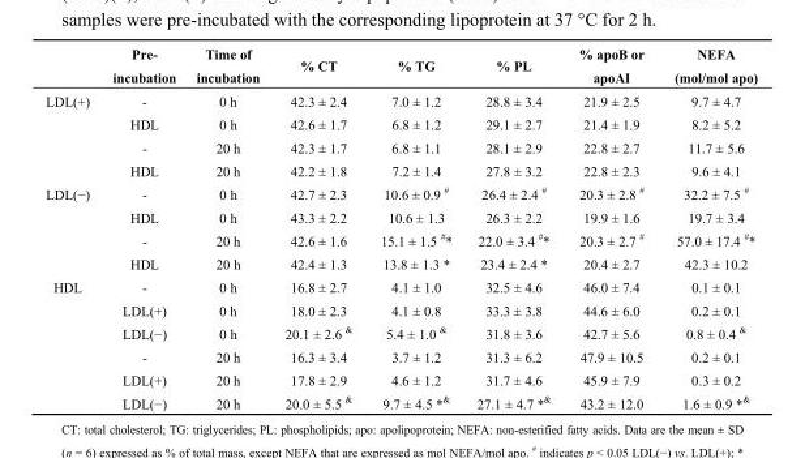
<table><thead><tr><td></td><td>Pre- incubation</td><td>Time of incubation</td><td>% CT</td><td>% TG</td><td>% PL</td><td>% apoB or apoAI</td><td>NEFA (mol/mol apo)</td></tr></thead><tbody><tr><td rowspan="4">LDL(+)</td><td>-</td><td>0 h</td><td>42.3 ± 2.4</td><td>7.0 ± 1.2</td><td>28.8 ± 3.4</td><td>21.9 ± 2.5</td><td>9.7 ± 4.7</td></tr><tr><td>HDL</td><td>0 h</td><td>42.6 ± 1.7</td><td>6.8 ± 1.2</td><td>29.1 ± 2.7</td><td>21.4 ± 1.9</td><td>8.2 ± 5.2</td></tr><tr><td>-</td><td>20 h</td><td>42.3 ± 1.7</td><td>6.8 ± 1.1</td><td>28.1 ± 2.9</td><td>22.8 ± 2.7</td><td>11.7 ± 5.6</td></tr><tr><td>HDL</td><td>20 h</td><td>42.2 ± 1.8</td><td>7.2 ± 1.4</td><td>27.8 ± 3.2</td><td>22.8 ± 2.3</td><td>9.6 ± 4.1</td></tr><tr><td rowspan="4">LDL(−)</td><td>-</td><td>0 h</td><td>42.7 ± 2.3</td><td>10.6 ± 0.9 #</td><td>26.4 ± 2.4 #</td><td>20.3 ± 2.8 #</td><td>32.2 ± 7.5 #</td></tr><tr><td>HDL</td><td>0 h</td><td>43.3 ± 2.2</td><td>10.6 ± 1.3</td><td>26.3 ± 2.2</td><td>19.9 ± 1.6</td><td>19.7 ± 3.4</td></tr><tr><td>-</td><td>20 h</td><td>42.6 ± 1.6</td><td>15.1 ± 1.5 #*</td><td>22.0 ± 3.4 #*</td><td>20.3 ± 2.7 #</td><td>57.0 ± 17.4 #*</td></tr><tr><td>HDL</td><td>20 h</td><td>42.4 ± 1.3</td><td>13.8 ± 1.3 *</td><td>23.4 ± 2.4 *</td><td>20.4 ± 2.7</td><td>42.3 ± 10.2</td></tr><tr><td rowspan="6">HDL</td><td>-</td><td>0 h</td><td>16.8 ± 2.7</td><td>4.1 ± 1.0</td><td>32.5 ± 4.6</td><td>46.0 ± 7.4</td><td>0.1 ± 0.1</td></tr><tr><td>LDL(+)</td><td>0 h</td><td>18.0 ± 2.3</td><td>4.1 ± 0.8</td><td>33.3 ± 3.8</td><td>44.6 ± 6.0</td><td>0.2 ± 0.1</td></tr><tr><td>LDL(−)</td><td>0 h</td><td>20.1 ± 2.6 &amp;</td><td>5.4 ± 1.0 &amp;</td><td>31.8 ± 3.6</td><td>42.7 ± 5.6</td><td>0.8 ± 0.4 &amp;</td></tr><tr><td>-</td><td>20 h</td><td>16.3 ± 3.4</td><td>3.7 ± 1.2</td><td>31.3 ± 6.2</td><td>47.9 ± 10.5</td><td>0.2 ± 0.1</td></tr><tr><td>LDL(+)</td><td>20 h</td><td>17.8 ± 2.9</td><td>4.6 ± 1.2</td><td>31.7 ± 4.6</td><td>45.9 ± 7.9</td><td>0.3 ± 0.2</td></tr><tr><td>LDL(−)</td><td>20 h</td><td>20.0 ± 5.5 &amp;</td><td>9.7 ± 4.5 *&amp;</td><td>27.1 ± 4.7 *&amp;</td><td>43.2 ± 12.0</td><td>1.6 ± 0.9 *&amp;</td></tr></tbody></table>